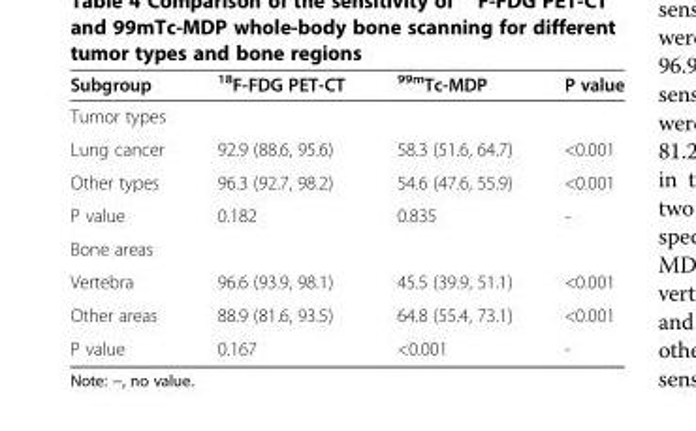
<table><thead><tr><td>Subgroup</td><td><sup>18</sup>F-FDG PET-CT</td><td><sup>99m</sup>Tc-MDP</td><td>P value</td></tr></thead><tbody><tr><td colspan="4">Tumor types</td></tr><tr><td>Lung cancer</td><td>92.9 (88.6, 95.6)</td><td>58.3 (51.6, 64.7)</td><td>&lt;0.001</td></tr><tr><td>Other types</td><td>96.3 (92.7, 98.2)</td><td>54.6 (47.6, 55.9)</td><td>&lt;0.001</td></tr><tr><td>P value</td><td>0.182</td><td>0.835</td><td>-</td></tr><tr><td colspan="4">Bone areas</td></tr><tr><td>Vertebra</td><td>96.6 (93.9, 98.1)</td><td>45.5 (39.9, 51.1)</td><td>&lt;0.001</td></tr><tr><td>Other areas</td><td>88.9 (81.6, 93.5)</td><td>64.8 (55.4, 73.1)</td><td>&lt;0.001</td></tr><tr><td>P value</td><td>0.167</td><td>&lt;0.001</td><td>-</td></tr></tbody></table>